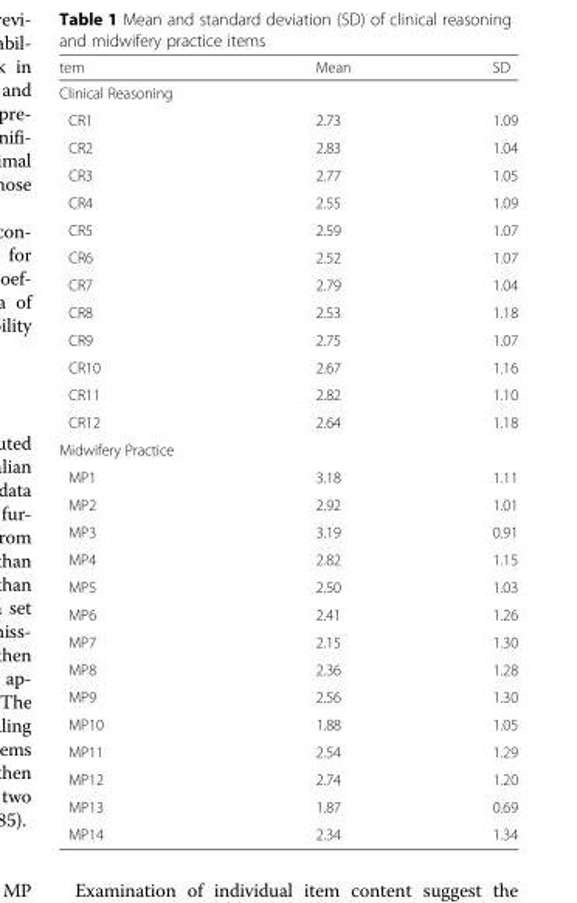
<table><thead><tr><td>tem</td><td>Mean</td><td>SD</td></tr></thead><tbody><tr><td colspan="3">Clinical Reasoning</td></tr><tr><td>CR1</td><td>2.73</td><td>1.09</td></tr><tr><td>CR2</td><td>2.83</td><td>1.04</td></tr><tr><td>CR3</td><td>2.77</td><td>1.05</td></tr><tr><td>CR4</td><td>2.55</td><td>1.09</td></tr><tr><td>CR5</td><td>2.59</td><td>1.07</td></tr><tr><td>CR6</td><td>2.52</td><td>1.07</td></tr><tr><td>CR7</td><td>2.79</td><td>1.04</td></tr><tr><td>CR8</td><td>2.53</td><td>1.18</td></tr><tr><td>CR9</td><td>2.75</td><td>1.07</td></tr><tr><td>CR10</td><td>2.67</td><td>1.16</td></tr><tr><td>CR11</td><td>2.82</td><td>1.10</td></tr><tr><td>CR12</td><td>2.64</td><td>1.18</td></tr><tr><td colspan="3">Midwifery Practice</td></tr><tr><td>MP1</td><td>3.18</td><td>1.11</td></tr><tr><td>MP2</td><td>2.92</td><td>1.01</td></tr><tr><td>MP3</td><td>3.19</td><td>0.91</td></tr><tr><td>MP4</td><td>2.82</td><td>1.15</td></tr><tr><td>MP5</td><td>2.50</td><td>1.03</td></tr><tr><td>MP6</td><td>2.41</td><td>1.26</td></tr><tr><td>MP7</td><td>2.15</td><td>1.30</td></tr><tr><td>MP8</td><td>2.36</td><td>1.28</td></tr><tr><td>MP9</td><td>2.56</td><td>1.30</td></tr><tr><td>MP10</td><td>1.88</td><td>1.05</td></tr><tr><td>MP11</td><td>2.54</td><td>1.29</td></tr><tr><td>MP12</td><td>2.74</td><td>1.20</td></tr><tr><td>MP13</td><td>1.87</td><td>0.69</td></tr><tr><td>MP14</td><td>2.34</td><td>1.34</td></tr></tbody></table>